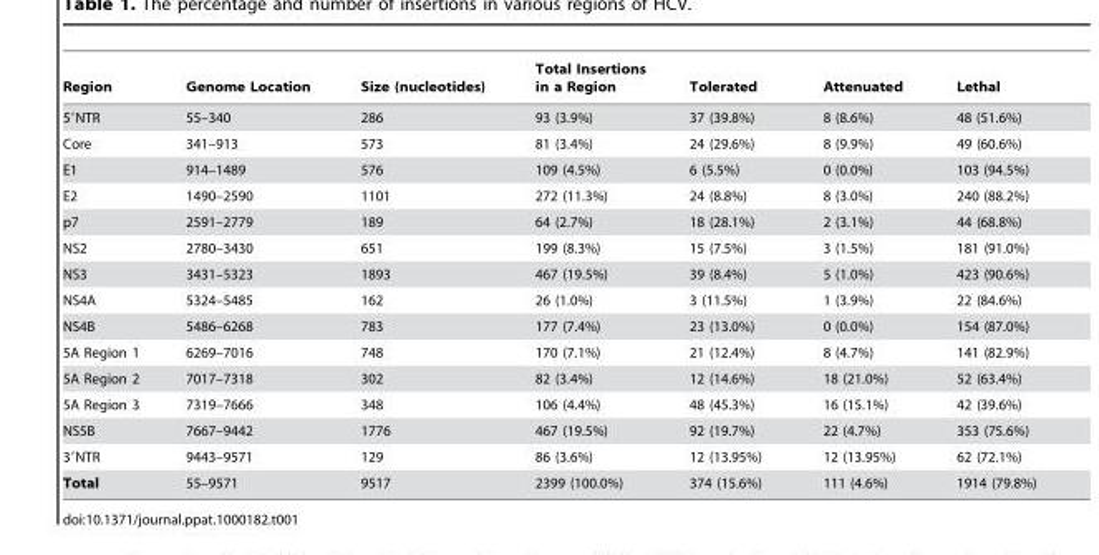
<table><thead><tr><td>Region</td><td>Genome Location</td><td>Size (nucleotides)</td><td>Total Insertions in a Region</td><td>Tolerated</td><td>Attenuated</td><td>Lethal</td></tr></thead><tbody><tr><td>5′NTR</td><td>55–340</td><td>286</td><td>93 (3.9%)</td><td>37 (39.8%)</td><td>8 (8.6%)</td><td>48 (51.6%)</td></tr><tr><td>Core</td><td>341–913</td><td>573</td><td>81 (3.4%)</td><td>24 (29.6%)</td><td>8 (9.9%)</td><td>49 (60.6%)</td></tr><tr><td>E1</td><td>914–1489</td><td>576</td><td>109 (4.5%)</td><td>6 (5.5%)</td><td>0 (0.0%)</td><td>103 (94.5%)</td></tr><tr><td>E2</td><td>1490–2590</td><td>1101</td><td>272 (11.3%)</td><td>24 (8.8%)</td><td>8 (3.0%)</td><td>240 (88.2%)</td></tr><tr><td>p7</td><td>2591–2779</td><td>189</td><td>64 (2.7%)</td><td>18 (28.1%)</td><td>2 (3.1%)</td><td>44 (68.8%)</td></tr><tr><td>NS2</td><td>2780–3430</td><td>651</td><td>199 (8.3%)</td><td>15 (7.5%)</td><td>3 (1.5%)</td><td>181 (91.0%)</td></tr><tr><td>NS3</td><td>3431–5323</td><td>1893</td><td>467 (19.5%)</td><td>39 (8.4%)</td><td>5 (1.0%)</td><td>423 (90.6%)</td></tr><tr><td>NS4A</td><td>5324–5485</td><td>162</td><td>26 (1.0%)</td><td>3 (11.5%)</td><td>1 (3.9%)</td><td>22 (84.6%)</td></tr><tr><td>NS4B</td><td>5486–6268</td><td>783</td><td>177 (7.4%)</td><td>23 (13.0%)</td><td>0 (0.0%)</td><td>154 (87.0%)</td></tr><tr><td>5A Region 1</td><td>6269–7016</td><td>748</td><td>170 (7.1%)</td><td>21 (12.4%)</td><td>8 (4.7%)</td><td>141 (82.9%)</td></tr><tr><td>5A Region 2</td><td>7017–7318</td><td>302</td><td>82 (3.4%)</td><td>12 (14.6%)</td><td>18 (21.0%)</td><td>52 (63.4%)</td></tr><tr><td>5A Region 3</td><td>7319–7666</td><td>348</td><td>106 (4.4%)</td><td>48 (45.3%)</td><td>16 (15.1%)</td><td>42 (39.6%)</td></tr><tr><td>NS5B</td><td>7667–9442</td><td>1776</td><td>467 (19.5%)</td><td>92 (19.7%)</td><td>22 (4.7%)</td><td>353 (75.6%)</td></tr><tr><td>3′NTR</td><td>9443–9571</td><td>129</td><td>86 (3.6%)</td><td>12 (13.95%)</td><td>12 (13.95%)</td><td>62 (72.1%)</td></tr><tr><td>Total</td><td>55–9571</td><td>9517</td><td>2399 (100.0%)</td><td>374 (15.6%)</td><td>111 (4.6%)</td><td>1914 (79.8%)</td></tr></tbody></table>